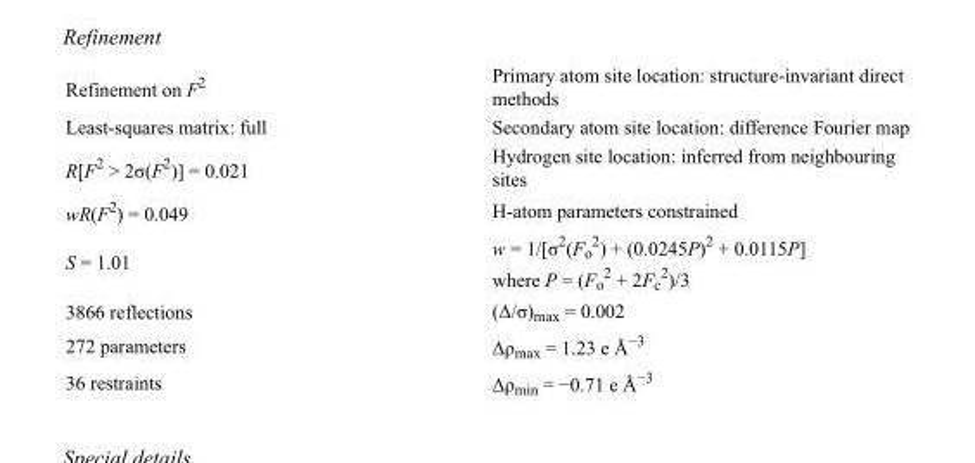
<table><tbody><tr><td>Refinement on F<sup>2</sup></td><td>Primary atom site location: structure-invariant direct methods</td></tr><tr><td>Least-squares matrix: full</td><td>Secondary atom site location: difference Fourier map</td></tr><tr><td>R[F<sup>2</sup> &gt; 2σ(F<sup>2</sup>)] = 0.021</td><td>Hydrogen site location: inferred from neighbouring sites</td></tr><tr><td>wR(F<sup>2</sup>) = 0.049</td><td>H-atom parameters constrained</td></tr><tr><td>S = 1.01</td><td>w = 1/[σ<sup>2</sup>(F<sub>o</sub> <sup>2</sup>) + (0.0245P)<sup>2</sup> + 0.0115P] where P = (F<sub>o</sub> <sup>2</sup> + 2F<sub>c</sub> <sup>2</sup>)/3</td></tr><tr><td>3866 reflections</td><td>(Δ/σ)<sub>max</sub> = 0.002</td></tr><tr><td>272 parameters</td><td>Δρ<sub>max</sub> = 1.23 e Å<sup>−3</sup></td></tr><tr><td>36 restraints</td><td>Δρ<sub>min</sub> = −0.71 e Å<sup>−3</sup></td></tr></tbody></table>